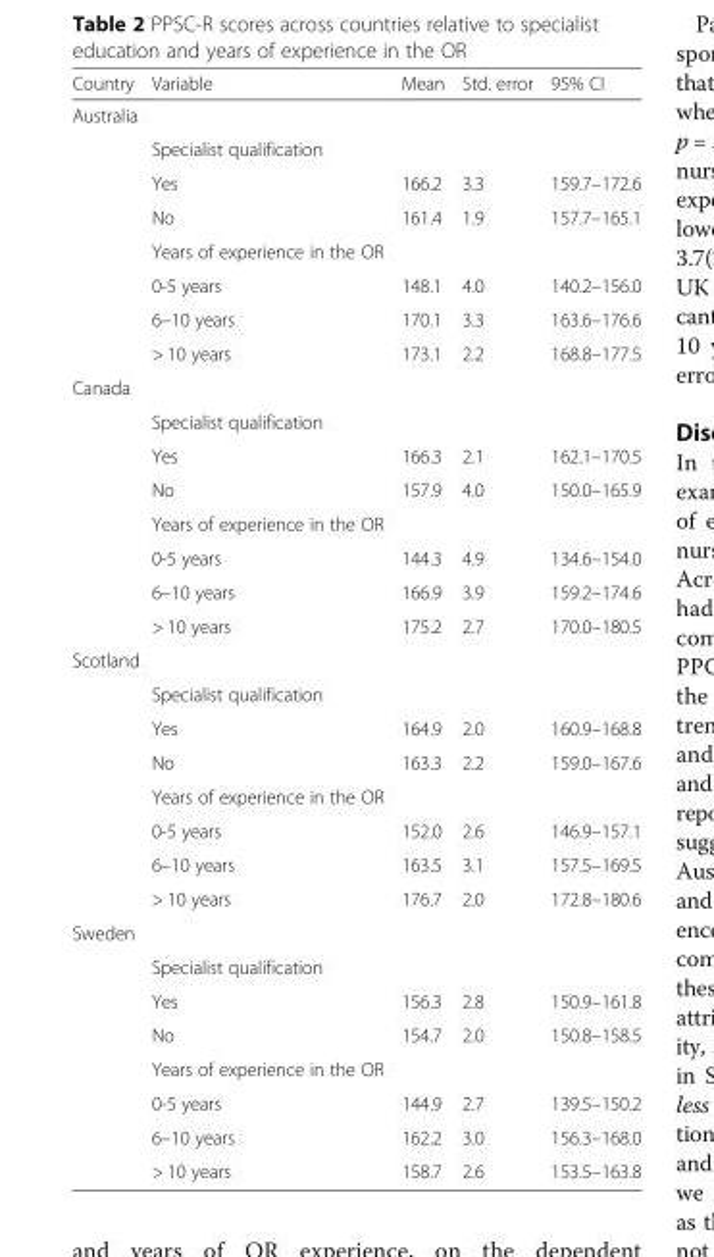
<table><thead><tr><td>Country</td><td>Variable</td><td>Mean</td><td>Std. error</td><td>95% CI</td></tr></thead><tbody><tr><td colspan="5">Australia</td></tr><tr><td></td><td>Specialist qualification</td><td></td><td></td><td></td></tr><tr><td></td><td>Yes</td><td>166.2</td><td>3.3</td><td>159.7–172.6</td></tr><tr><td></td><td>No</td><td>161.4</td><td>1.9</td><td>157.7–165.1</td></tr><tr><td></td><td>Years of experience in the OR</td><td></td><td></td><td></td></tr><tr><td></td><td>0-5 years</td><td>148.1</td><td>4.0</td><td>140.2–156.0</td></tr><tr><td></td><td>6–10 years</td><td>170.1</td><td>3.3</td><td>163.6–176.6</td></tr><tr><td></td><td>&gt; 10 years</td><td>173.1</td><td>2.2</td><td>168.8–177.5</td></tr><tr><td colspan="5">Canada</td></tr><tr><td></td><td>Specialist qualification</td><td></td><td></td><td></td></tr><tr><td></td><td>Yes</td><td>166.3</td><td>2.1</td><td>162.1–170.5</td></tr><tr><td></td><td>No</td><td>157.9</td><td>4.0</td><td>150.0–165.9</td></tr><tr><td></td><td>Years of experience in the OR</td><td></td><td></td><td></td></tr><tr><td></td><td>0-5 years</td><td>144.3</td><td>4.9</td><td>134.6–154.0</td></tr><tr><td></td><td>6–10 years</td><td>166.9</td><td>3.9</td><td>159.2–174.6</td></tr><tr><td></td><td>&gt; 10 years</td><td>175.2</td><td>2.7</td><td>170.0–180.5</td></tr><tr><td colspan="5">Scotland</td></tr><tr><td></td><td>Specialist qualification</td><td></td><td></td><td></td></tr><tr><td></td><td>Yes</td><td>164.9</td><td>2.0</td><td>160.9–168.8</td></tr><tr><td></td><td>No</td><td>163.3</td><td>2.2</td><td>159.0–167.6</td></tr><tr><td></td><td>Years of experience in the OR</td><td></td><td></td><td></td></tr><tr><td></td><td>0-5 years</td><td>152.0</td><td>2.6</td><td>146.9–157.1</td></tr><tr><td></td><td>6–10 years</td><td>163.5</td><td>3.1</td><td>157.5–169.5</td></tr><tr><td></td><td>&gt; 10 years</td><td>176.7</td><td>2.0</td><td>172.8–180.6</td></tr><tr><td colspan="5">Sweden</td></tr><tr><td></td><td>Specialist qualification</td><td></td><td></td><td></td></tr><tr><td></td><td>Yes</td><td>156.3</td><td>2.8</td><td>150.9–161.8</td></tr><tr><td></td><td>No</td><td>154.7</td><td>2.0</td><td>150.8–158.5</td></tr><tr><td></td><td>Years of experience in the OR</td><td></td><td></td><td></td></tr><tr><td></td><td>0-5 years</td><td>144.9</td><td>2.7</td><td>139.5–150.2</td></tr><tr><td></td><td>6–10 years</td><td>162.2</td><td>3.0</td><td>156.3–168.0</td></tr><tr><td></td><td>&gt; 10 years</td><td>158.7</td><td>2.6</td><td>153.5–163.8</td></tr></tbody></table>